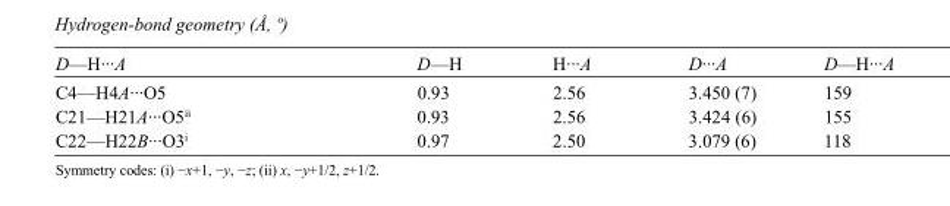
<table><tbody><tr><td>D—H···A</td><td>D—H</td><td>H···A</td><td>D···A</td><td>D—H···A</td></tr><tr><td>C4—H4A···O5</td><td>0.93</td><td>2.56</td><td>3.450 (7)</td><td>159</td></tr><tr><td>C21—H21A···O5<sup>ii</sup></td><td>0.93</td><td>2.56</td><td>3.424 (6)</td><td>155</td></tr><tr><td>C22—H22B···O3<sup>i</sup></td><td>0.97</td><td>2.50</td><td>3.079 (6)</td><td>118</td></tr></tbody></table>